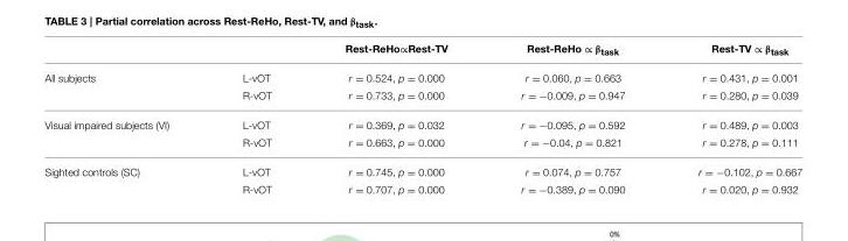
<table><thead><tr><td></td><td></td><td>Rest-ReHo∝Rest-TV</td><td>Rest-ReHo ∝ β<sub>task</sub></td><td>Rest-TV ∝ β<sub>task</sub></td></tr></thead><tbody><tr><td rowspan="2">All subjects</td><td>L-vOT</td><td>r = 0.524, p = 0.000</td><td>r = 0.060, p = 0.663</td><td>r = 0.431, p = 0.001</td></tr><tr><td>R-vOT</td><td>r = 0.733, p = 0.000</td><td>r = −0.009, p = 0.947</td><td>r = 0.280, p = 0.039</td></tr><tr><td rowspan="2">Visual impaired subjects (VI)</td><td>L-vOT</td><td>r = 0.369, p = 0.032</td><td>r = −0.095, p = 0.592</td><td>r = 0.489, p = 0.003</td></tr><tr><td>R-vOT</td><td>r = 0.663, p = 0.000</td><td>r = −0.04, p = 0.821</td><td>r = 0.278, p = 0.111</td></tr><tr><td rowspan="2">Sighted controls (SC)</td><td>L-vOT</td><td>r = 0.745, p = 0.000</td><td>r = 0.074, p = 0.757</td><td>r = −0.102, p = 0.667</td></tr><tr><td>R-vOT</td><td>r = 0.707, p = 0.000</td><td>r = −0.389, p = 0.090</td><td>r = 0.020, p = 0.932</td></tr></tbody></table>